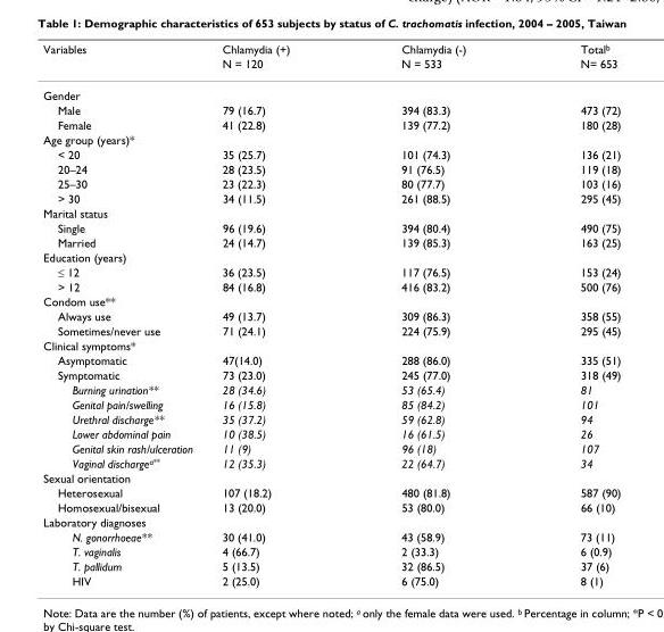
<table><thead><tr><td rowspan="2">Variables</td><td rowspan="2">Chlamydia (+) N = 120</td><td rowspan="2">Chlamydia (-) N = 533</td><td rowspan="2">Total<sup>b</sup> N= 653</td></tr><tr></tr></thead><tbody><tr><td colspan="4">Gender</td></tr><tr><td>Male</td><td>79 (16.7)</td><td>394 (83.3)</td><td>473 (72)</td></tr><tr><td>Female</td><td>41 (22.8)</td><td>139 (77.2)</td><td>180 (28)</td></tr><tr><td colspan="4">Age group (years)*</td></tr><tr><td>&lt; 20</td><td>35 (25.7)</td><td>101 (74.3)</td><td>136 (21)</td></tr><tr><td>20–24</td><td>28 (23.5)</td><td>91 (76.5)</td><td>119 (18)</td></tr><tr><td>25–30</td><td>23 (22.3)</td><td>80 (77.7)</td><td>103 (16)</td></tr><tr><td>&gt; 30</td><td>34 (11.5)</td><td>261 (88.5)</td><td>295 (45)</td></tr><tr><td colspan="4">Marital status</td></tr><tr><td>Single</td><td>96 (19.6)</td><td>394 (80.4)</td><td>490 (75)</td></tr><tr><td>Married</td><td>24 (14.7)</td><td>139 (85.3)</td><td>163 (25)</td></tr><tr><td colspan="4">Education (years)</td></tr><tr><td>≤ 12</td><td>36 (23.5)</td><td>117 (76.5)</td><td>153 (24)</td></tr><tr><td>&gt; 12</td><td>84 (16.8)</td><td>416 (83.2)</td><td>500 (76)</td></tr><tr><td colspan="4">Condom use**</td></tr><tr><td>Always use</td><td>49 (13.7)</td><td>309 (86.3)</td><td>358 (55)</td></tr><tr><td>Sometimes/never use</td><td>71 (24.1)</td><td>224 (75.9)</td><td>295 (45)</td></tr><tr><td colspan="4">Clinical symptoms*</td></tr><tr><td>Asymptomatic</td><td>47(14.0)</td><td>288 (86.0)</td><td>335 (51)</td></tr><tr><td>Symptomatic</td><td>73 (23.0)</td><td>245 (77.0)</td><td>318 (49)</td></tr><tr><td>Burning urination**</td><td>28 (34.6)</td><td>53 (65.4)</td><td>81</td></tr><tr><td>Genital pain/swelling</td><td>16 (15.8)</td><td>85 (84.2)</td><td>101</td></tr><tr><td>Urethral discharge**</td><td>35 (37.2)</td><td>59 (62.8)</td><td>94</td></tr><tr><td>Lower abdominal pain</td><td>10 (38.5)</td><td>16 (61.5)</td><td>26</td></tr><tr><td>Genital skin rash/ulceration</td><td>11 (9)</td><td>96 (18)</td><td>107</td></tr><tr><td>Vaginal discharge<sup>a**</sup></td><td>12 (35.3)</td><td>22 (64.7)</td><td>34</td></tr><tr><td colspan="4">Sexual orientation</td></tr><tr><td>Heterosexual</td><td>107 (18.2)</td><td>480 (81.8)</td><td>587 (90)</td></tr><tr><td>Homosexual/bisexual</td><td>13 (20.0)</td><td>53 (80.0)</td><td>66 (10)</td></tr><tr><td colspan="4">Laboratory diagnoses</td></tr><tr><td>N. gonorrhoeae**</td><td>30 (41.0)</td><td>43 (58.9)</td><td>73 (11)</td></tr><tr><td>T. vaginalis</td><td>4 (66.7)</td><td>2 (33.3)</td><td>6 (0.9)</td></tr><tr><td>T. pallidum</td><td>5 (13.5)</td><td>32 (86.5)</td><td>37 (6)</td></tr><tr><td>HIV</td><td>2 (25.0)</td><td>6 (75.0)</td><td>8 (1)</td></tr></tbody></table>